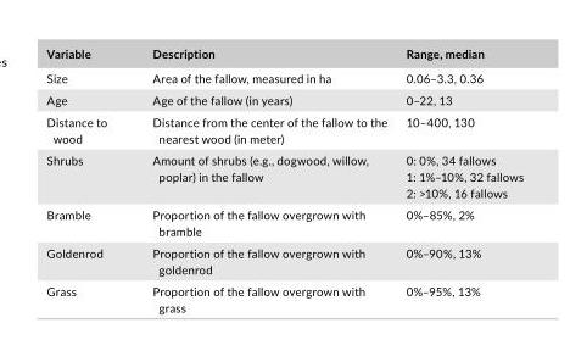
<table><thead><tr><td>Variable</td><td>Description</td><td>Range, median</td></tr></thead><tbody><tr><td>Size</td><td>Area of the fallow, measured in ha</td><td>0.06–3.3, 0.36</td></tr><tr><td>Age</td><td>Age of the fallow (in years)</td><td>0–22, 13</td></tr><tr><td>Distance to wood</td><td>Distance from the center of the fallow to the nearest wood (in meter)</td><td>10–400, 130</td></tr><tr><td>Shrubs</td><td>Amount of shrubs (e.g., dogwood, willow, poplar) in the fallow</td><td>0: 0%, 34 fallows 1: 1%–10%, 32 fallows 2: &gt;10%, 16 fallows</td></tr><tr><td>Bramble</td><td>Proportion of the fallow overgrown with bramble</td><td>0%–85%, 2%</td></tr><tr><td>Goldenrod</td><td>Proportion of the fallow overgrown with goldenrod</td><td>0%–90%, 13%</td></tr><tr><td>Grass</td><td>Proportion of the fallow overgrown with grass</td><td>0%–95%, 13%</td></tr></tbody></table>